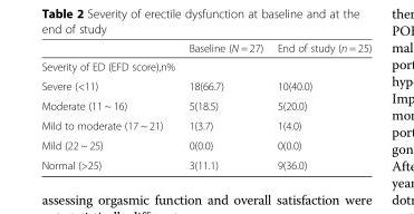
<table><thead><tr><td></td><td>Baseline (N = 27)</td><td>End of study (n = 25)</td></tr></thead><tbody><tr><td colspan="3">Severity of ED (EFD score),n%</td></tr><tr><td>Severe (&lt;11)</td><td>18(66.7)</td><td>10(40.0)</td></tr><tr><td>Moderate (11 ~ 16)</td><td>5(18.5)</td><td>5(20.0)</td></tr><tr><td>Mild to moderate (17 ~ 21)</td><td>1(3.7)</td><td>1(4.0)</td></tr><tr><td>Mild (22 ~ 25)</td><td>0(0.0)</td><td>0(0.0)</td></tr><tr><td>Normal (&gt;25)</td><td>3(11.1)</td><td>9(36.0)</td></tr></tbody></table>